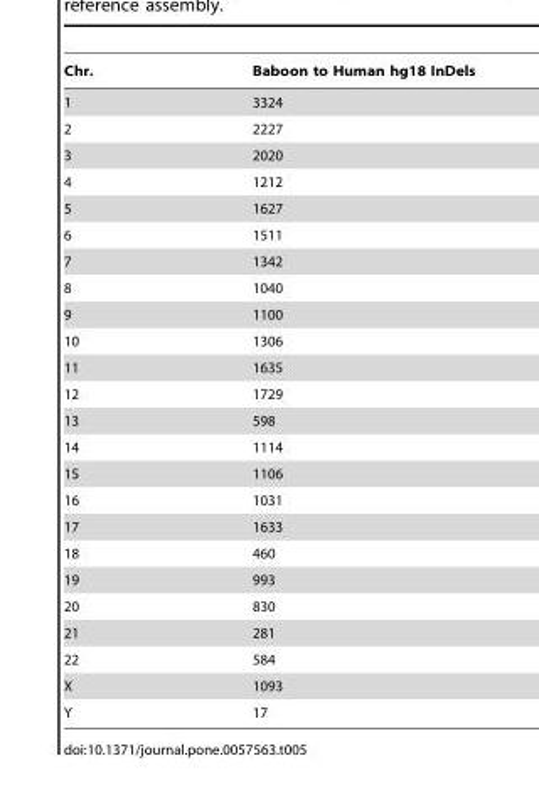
<table><thead><tr><td>Chr.</td><td>Baboon to Human hg18 InDels</td></tr></thead><tbody><tr><td>1</td><td>3324</td></tr><tr><td>2</td><td>2227</td></tr><tr><td>3</td><td>2020</td></tr><tr><td>4</td><td>1212</td></tr><tr><td>5</td><td>1627</td></tr><tr><td>6</td><td>1511</td></tr><tr><td>7</td><td>1342</td></tr><tr><td>8</td><td>1040</td></tr><tr><td>9</td><td>1100</td></tr><tr><td>10</td><td>1306</td></tr><tr><td>11</td><td>1635</td></tr><tr><td>12</td><td>1729</td></tr><tr><td>13</td><td>598</td></tr><tr><td>14</td><td>1114</td></tr><tr><td>15</td><td>1106</td></tr><tr><td>16</td><td>1031</td></tr><tr><td>17</td><td>1633</td></tr><tr><td>18</td><td>460</td></tr><tr><td>19</td><td>993</td></tr><tr><td>20</td><td>830</td></tr><tr><td>21</td><td>281</td></tr><tr><td>22</td><td>584</td></tr><tr><td>X</td><td>1093</td></tr><tr><td>Y</td><td>17</td></tr></tbody></table>